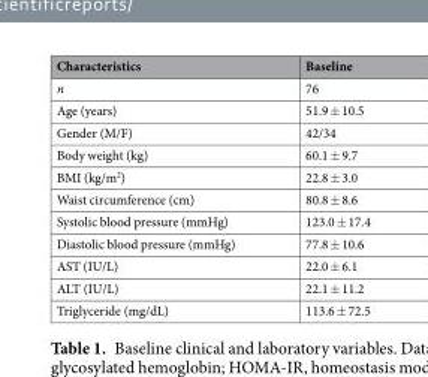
<table><thead><tr><td>Characteristics</td><td>Baseline</td></tr></thead><tbody><tr><td>n</td><td>76</td></tr><tr><td>Age (years)</td><td>51.9 ± 10.5</td></tr><tr><td>Gender (M/F)</td><td>42/34</td></tr><tr><td>Body weight (kg)</td><td>60.1 ± 9.7</td></tr><tr><td>BMI (kg/m<sup>2</sup>)</td><td>22.8 ± 3.0</td></tr><tr><td>Waist circumference (cm)</td><td>80.8 ± 8.6</td></tr><tr><td>Systolic blood pressure (mmHg)</td><td>123.0 ± 17.4</td></tr><tr><td>Diastolic blood pressure (mmHg)</td><td>77.8 ± 10.6</td></tr><tr><td>AST (IU/L)</td><td>22.0 ± 6.1</td></tr><tr><td>ALT (IU/L)</td><td>22.1 ± 11.2</td></tr><tr><td>Triglyceride (mg/dL)</td><td>113.6 ± 72.5</td></tr></tbody></table>